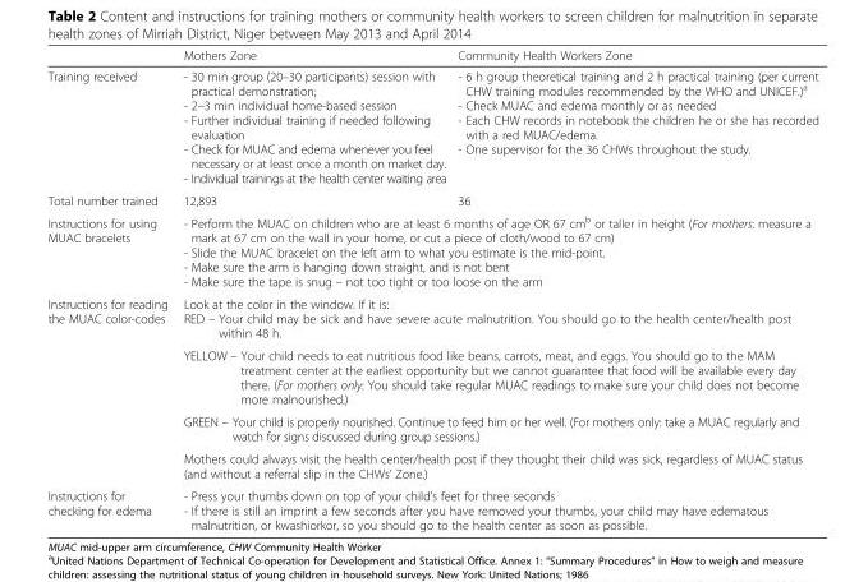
<table><thead><tr><td></td><td>Mothers Zone</td><td>Community Health Workers Zone</td></tr></thead><tbody><tr><td>Training received</td><td>- 30 min group (20–30 participants) session with practical demonstration; - 2–3 min individual home-based session - Further individual training if needed following evaluation - Check for MUAC and edema whenever you feel necessary or at least once a month on market day. - Individual trainings at the health center waiting area</td><td>- 6 h group theoretical training and 2 h practical training (per current CHW training modules recommended by the WHO and UNICEF.)<sup>a</sup> - Check MUAC and edema monthly or as needed - Each CHW records in notebook the children he or she has recorded with a red MUAC/edema. - One supervisor for the 36 CHWs throughout the study.</td></tr><tr><td>Total number trained</td><td>12,893</td><td>36</td></tr><tr><td>Instructions for using MUAC bracelets</td><td colspan="2">- Perform the MUAC on children who are at least 6 months of age OR 67 cm<sup>b</sup> or taller in height (For mothers: measure a mark at 67 cm on the wall in your home, or cut a piece of cloth/wood to 67 cm) - Slide the MUAC bracelet on the left arm to what you estimate is the mid-point. - Make sure the arm is hanging down straight, and is not bent - Make sure the tape is snug – not too tight or too loose on the arm</td></tr><tr><td rowspan="4">Instructions for reading the MUAC color-codes</td><td colspan="2">Look at the color in the window. If it is: RED – Your child may be sick and have severe acute malnutrition. You should go to the health center/health post within 48 h.</td></tr><tr><td colspan="2">YELLOW – Your child needs to eat nutritious food like beans, carrots, meat, and eggs. You should go to the MAM treatment center at the earliest opportunity but we cannot guarantee that food will be available every day there. (For mothers only: You should take regular MUAC readings to make sure your child does not become more malnourished.)</td></tr><tr><td colspan="2">GREEN – Your child is properly nourished. Continue to feed him or her well. (For mothers only: take a MUAC regularly and watch for signs discussed during group sessions.)</td></tr><tr><td colspan="2">Mothers could always visit the health center/health post if they thought their child was sick, regardless of MUAC status (and without a referral slip in the CHWs’ Zone.)</td></tr><tr><td>Instructions for checking for edema</td><td colspan="2">- Press your thumbs down on top of your child’s feet for three seconds - If there is still an imprint a few seconds after you have removed your thumbs, your child may have edematous malnutrition, or kwashiorkor, so you should go to the health center as soon as possible.</td></tr></tbody></table>